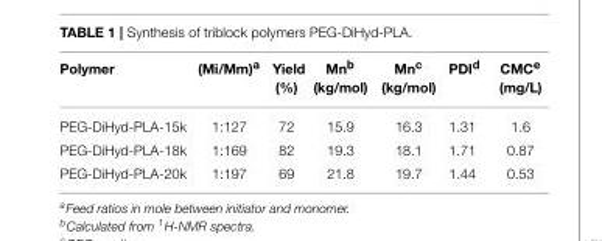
<table><thead><tr><td>Polymer</td><td>(Mi/Mm)<sup>a</sup></td><td>Yield (%)</td><td>Mn<sup>b</sup> (kg/mol)</td><td>Mn<sup>c</sup> (kg/mol)</td><td>PDI<sup>d</sup></td><td>CMC<sup>e</sup> (mg/L)</td></tr></thead><tbody><tr><td>PEG-DiHyd-PLA-15k</td><td>1:127</td><td>72</td><td>15.9</td><td>16.3</td><td>1.31</td><td>1.6</td></tr><tr><td>PEG-DiHyd-PLA-18k</td><td>1:169</td><td>82</td><td>19.3</td><td>18.1</td><td>1.71</td><td>0.87</td></tr><tr><td>PEG-DiHyd-PLA-20k</td><td>1:197</td><td>69</td><td>21.8</td><td>19.7</td><td>1.44</td><td>0.53</td></tr></tbody></table>